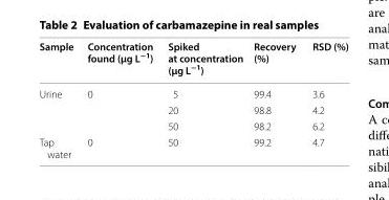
<table><thead><tr><td>Sample</td><td>Concentration found (µg L<sup>−1</sup>)</td><td>Spiked at concentration (µg L<sup>−1</sup>)</td><td>Recovery (%)</td><td>RSD (%)</td></tr></thead><tbody><tr><td rowspan="3">Urine</td><td rowspan="3">0</td><td>5</td><td>99.4</td><td>3.6</td></tr><tr><td>20</td><td>98.8</td><td>4.2</td></tr><tr><td>50</td><td>98.2</td><td>6.2</td></tr><tr><td>Tap water</td><td>0</td><td>50</td><td>99.2</td><td>4.7</td></tr></tbody></table>